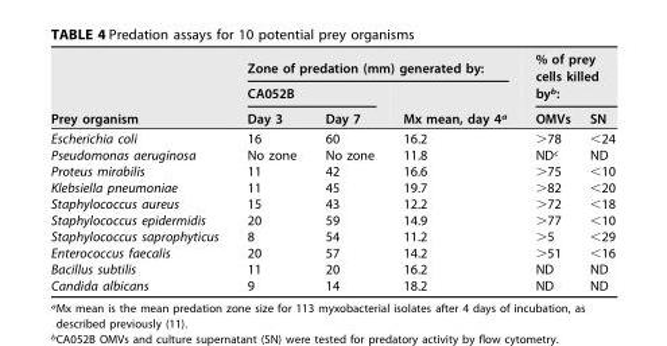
<table><thead><tr><td rowspan="3">Prey organism</td><td colspan="3">Zone of predation (mm) generated by:</td><td rowspan="2" colspan="2">% of prey cells killed by<sup>b</sup>:</td></tr><tr><td colspan="2">CA052B</td><td rowspan="2">Mx mean, day 4<sup>a</sup></td></tr><tr><td>Day 3</td><td>Day 7</td><td>OMVs</td><td>SN</td></tr></thead><tbody><tr><td>Escherichia coli</td><td>16</td><td>60</td><td>16.2</td><td>&gt;78</td><td>&lt;24</td></tr><tr><td>Pseudomonas aeruginosa</td><td>No zone</td><td>No zone</td><td>11.8</td><td>ND<sup>c</sup></td><td>ND</td></tr><tr><td>Proteus mirabilis</td><td>11</td><td>42</td><td>16.6</td><td>&gt;75</td><td>&lt;10</td></tr><tr><td>Klebsiella pneumoniae</td><td>11</td><td>45</td><td>19.7</td><td>&gt;82</td><td>&lt;20</td></tr><tr><td>Staphylococcus aureus</td><td>15</td><td>43</td><td>12.2</td><td>&gt;72</td><td>&lt;18</td></tr><tr><td>Staphylococcus epidermidis</td><td>20</td><td>59</td><td>14.9</td><td>&gt;77</td><td>&lt;10</td></tr><tr><td>Staphylococcus saprophyticus</td><td>8</td><td>54</td><td>11.2</td><td>&gt;5</td><td>&lt;29</td></tr><tr><td>Enterococcus faecalis</td><td>20</td><td>57</td><td>14.2</td><td>&gt;51</td><td>&lt;16</td></tr><tr><td>Bacillus subtilis</td><td>11</td><td>20</td><td>16.2</td><td>ND</td><td>ND</td></tr><tr><td>Candida albicans</td><td>9</td><td>14</td><td>18.2</td><td>ND</td><td>ND</td></tr></tbody></table>